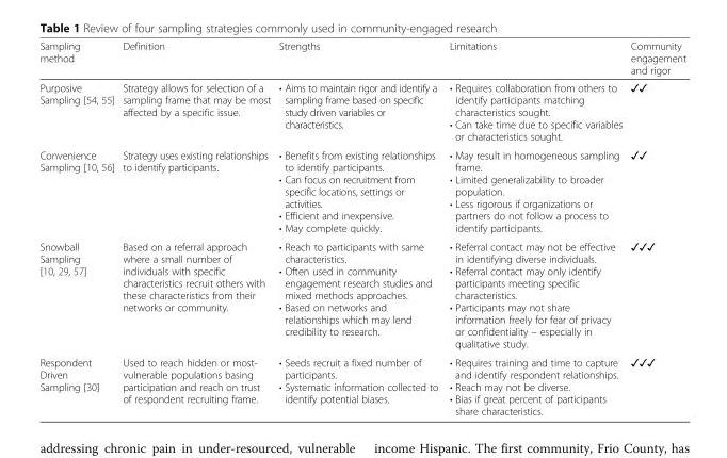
<table><thead><tr><td>Sampling method</td><td>Definition</td><td>Strengths</td><td>Limitations</td><td>Community engagement and rigor</td></tr></thead><tbody><tr><td>Purposive Sampling [54, 55]</td><td>Strategy allows for selection of a sampling frame that may be most affected by a specific issue.</td><td>• Aims to maintain rigor and identify a sampling frame based on specific study driven variables or characteristics.</td><td>• Requires collaboration from others to identify participants matching characteristics sought. • Can take time due to specific variables or characteristics sought.</td><td>✓✓</td></tr><tr><td>Convenience Sampling [10, 56]</td><td>Strategy uses existing relationships to identify participants.</td><td>• Benefits from existing relationships to identify participants. • Can focus on recruitment from specific locations, settings or activities. • Efficient and inexpensive. • May complete quickly.</td><td>• May result in homogeneous sampling frame. • Limited generalizability to broader population. • Less rigorous if organizations or partners do not follow a process to identify participants.</td><td>✓✓</td></tr><tr><td>Snowball Sampling [10, 29, 57]</td><td>Based on a referral approach where a small number of individuals with specific characteristics recruit others with these characteristics from their networks or community.</td><td>• Reach to participants with same characteristics. • Often used in community engagement research studies and mixed methods approaches. • Based on networks and relationships which may lend credibility to research.</td><td>• Referral contact may not be effective in identifying diverse individuals. • Referral contact may only identify participants meeting specific characteristics. • Participants may not share information freely for fear of privacy or confidentiality – especially in qualitative study.</td><td>✓✓✓</td></tr><tr><td>Respondent Driven Sampling [30]</td><td>Used to reach hidden or most- vulnerable populations basing participation and reach on trust of respondent recruiting frame.</td><td>• Seeds recruit a fixed number of participants. • Systematic information collected to identify potential biases.</td><td>• Requires training and time to capture and identify respondent relationships. • Reach may not be diverse. • Bias if great percent of participants share characteristics.</td><td>✓✓✓</td></tr></tbody></table>